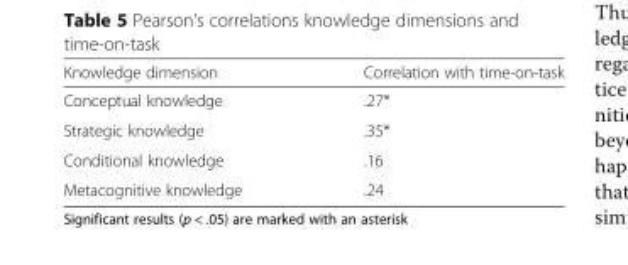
<table><thead><tr><td>Knowledge dimension</td><td>Correlation with time-on-task</td></tr></thead><tbody><tr><td>Conceptual knowledge</td><td>.27*</td></tr><tr><td>Strategic knowledge</td><td>.35*</td></tr><tr><td>Conditional knowledge</td><td>.16</td></tr><tr><td>Metacognitive knowledge</td><td>.24</td></tr></tbody></table>